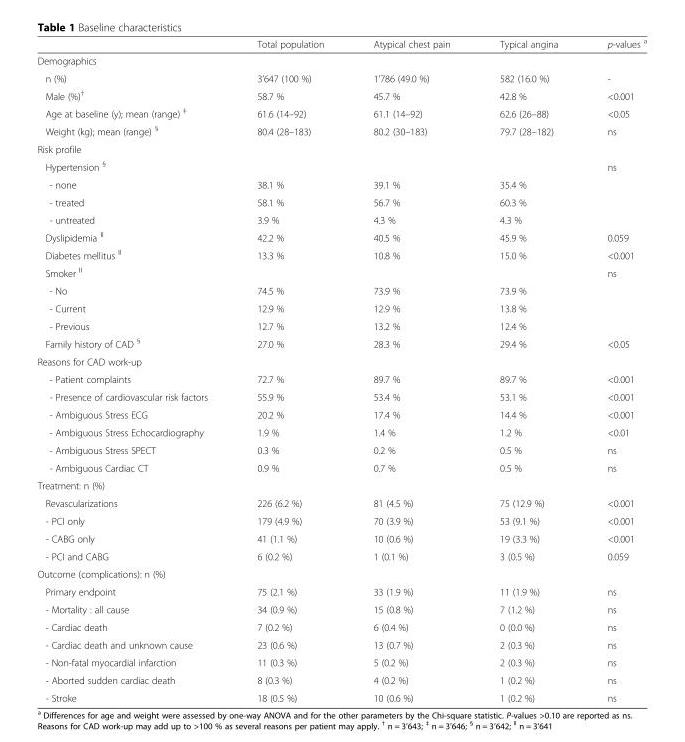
<table><thead><tr><td></td><td>Total population</td><td>Atypical chest pain</td><td>Typical angina</td><td>p-values <sup>a</sup></td></tr></thead><tbody><tr><td colspan="5">Demographics</td></tr><tr><td>n (%)</td><td>3’647 (100 %)</td><td>1’786 (49.0 %)</td><td>582 (16.0 %)</td><td>-</td></tr><tr><td>Male (%)<sup>†</sup></td><td>58.7 %</td><td>45.7 %</td><td>42.8 %</td><td>&lt;0.001</td></tr><tr><td>Age at baseline (y); mean (range) <sup>‡</sup></td><td>61.6 (14–92)</td><td>61.1 (14–92)</td><td>62.6 (26–88)</td><td>&lt;0.05</td></tr><tr><td>Weight (kg); mean (range) <sup>§</sup></td><td>80.4 (28–183)</td><td>80.2 (30–183)</td><td>79.7 (28–182)</td><td>ns</td></tr><tr><td colspan="5">Risk profile</td></tr><tr><td colspan="4">Hypertension <sup>§</sup></td><td rowspan="4">ns</td></tr><tr><td>- none</td><td>38.1 %</td><td>39.1 %</td><td>35.4 %</td></tr><tr><td>- treated</td><td>58.1 %</td><td>56.7 %</td><td>60.3 %</td></tr><tr><td>- untreated</td><td>3.9 %</td><td>4.3 %</td><td>4.3 %</td></tr><tr><td>Dyslipidemia <sup>ǁ</sup></td><td>42.2 %</td><td>40.5 %</td><td>45.9 %</td><td>0.059</td></tr><tr><td>Diabetes mellitus <sup>ǁ</sup></td><td>13.3 %</td><td>10.8 %</td><td>15.0 %</td><td>&lt;0.001</td></tr><tr><td colspan="4">Smoker <sup>ǁ</sup></td><td rowspan="4">ns</td></tr><tr><td>- No</td><td>74.5 %</td><td>73.9 %</td><td>73.9 %</td></tr><tr><td>- Current</td><td>12.9 %</td><td>12.9 %</td><td>13.8 %</td></tr><tr><td>- Previous</td><td>12.7 %</td><td>13.2 %</td><td>12.4 %</td></tr><tr><td>Family history of CAD <sup>§</sup></td><td>27.0 %</td><td>28.3 %</td><td>29.4 %</td><td>&lt;0.05</td></tr><tr><td colspan="5">Reasons for CAD work-up</td></tr><tr><td>- Patient complaints</td><td>72.7 %</td><td>89.7 %</td><td>89.7 %</td><td>&lt;0.001</td></tr><tr><td>- Presence of cardiovascular risk factors</td><td>55.9 %</td><td>53.4 %</td><td>53.1 %</td><td>&lt;0.001</td></tr><tr><td>- Ambiguous Stress ECG</td><td>20.2 %</td><td>17.4 %</td><td>14.4 %</td><td>&lt;0.001</td></tr><tr><td>- Ambiguous Stress Echocardiography</td><td>1.9 %</td><td>1.4 %</td><td>1.2 %</td><td>&lt;0.01</td></tr><tr><td>- Ambiguous Stress SPECT</td><td>0.3 %</td><td>0.2 %</td><td>0.5 %</td><td>ns</td></tr><tr><td>- Ambiguous Cardiac CT</td><td>0.9 %</td><td>0.7 %</td><td>0.5 %</td><td>ns</td></tr><tr><td colspan="5">Treatment: n (%)</td></tr><tr><td>Revascularizations</td><td>226 (6.2 %)</td><td>81 (4.5 %)</td><td>75 (12.9 %)</td><td>&lt;0.001</td></tr><tr><td>- PCI only</td><td>179 (4.9 %)</td><td>70 (3.9 %)</td><td>53 (9.1 %)</td><td>&lt;0.001</td></tr><tr><td>- CABG only</td><td>41 (1.1 %)</td><td>10 (0.6 %)</td><td>19 (3.3 %)</td><td>&lt;0.001</td></tr><tr><td>- PCI and CABG</td><td>6 (0.2 %)</td><td>1 (0.1 %)</td><td>3 (0.5 %)</td><td>0.059</td></tr><tr><td colspan="5">Outcome (complications): n (%)</td></tr><tr><td>Primary endpoint</td><td>75 (2.1 %)</td><td>33 (1.9 %)</td><td>11 (1.9 %)</td><td>ns</td></tr><tr><td>- Mortality : all cause</td><td>34 (0.9 %)</td><td>15 (0.8 %)</td><td>7 (1.2 %)</td><td>ns</td></tr><tr><td>- Cardiac death</td><td>7 (0.2 %)</td><td>6 (0.4 %)</td><td>0 (0.0 %)</td><td>ns</td></tr><tr><td>- Cardiac death and unknown cause</td><td>23 (0.6 %)</td><td>13 (0.7 %)</td><td>2 (0.3 %)</td><td>ns</td></tr><tr><td>- Non-fatal myocardial infarction</td><td>11 (0.3 %)</td><td>5 (0.2 %)</td><td>2 (0.3 %)</td><td>ns</td></tr><tr><td>- Aborted sudden cardiac death</td><td>8 (0.3 %)</td><td>4 (0.2 %)</td><td>1 (0.2 %)</td><td>ns</td></tr><tr><td>- Stroke</td><td>18 (0.5 %)</td><td>10 (0.6 %)</td><td>1 (0.2 %)</td><td>ns</td></tr></tbody></table>